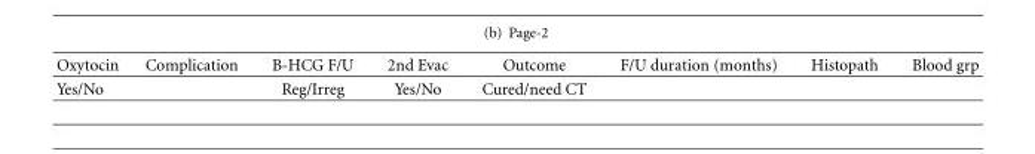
<table><thead><tr><td>Oxytocin</td><td>Complication</td><td>B-HCG F/U</td><td>2nd Evac</td><td>Outcome</td><td>F/U duration (months)</td><td>Histopath</td><td>Blood grp</td></tr></thead><tbody><tr><td>Yes/No</td><td></td><td>Reg/Irreg</td><td>Yes/No</td><td>Cured/need CT</td><td></td><td></td><td></td></tr></tbody></table>